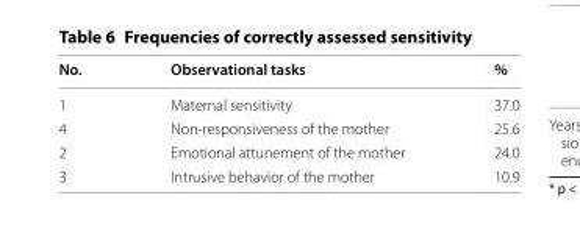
<table><thead><tr><td>No.</td><td>Observational tasks</td><td>%</td></tr></thead><tbody><tr><td>1</td><td>Maternal sensitivity</td><td>37.0</td></tr><tr><td>4</td><td>Non-responsiveness of the mother</td><td>25.6</td></tr><tr><td>2</td><td>Emotional attunement of the mother</td><td>24.0</td></tr><tr><td>3</td><td>Intrusive behavior of the mother</td><td>10.9</td></tr></tbody></table>